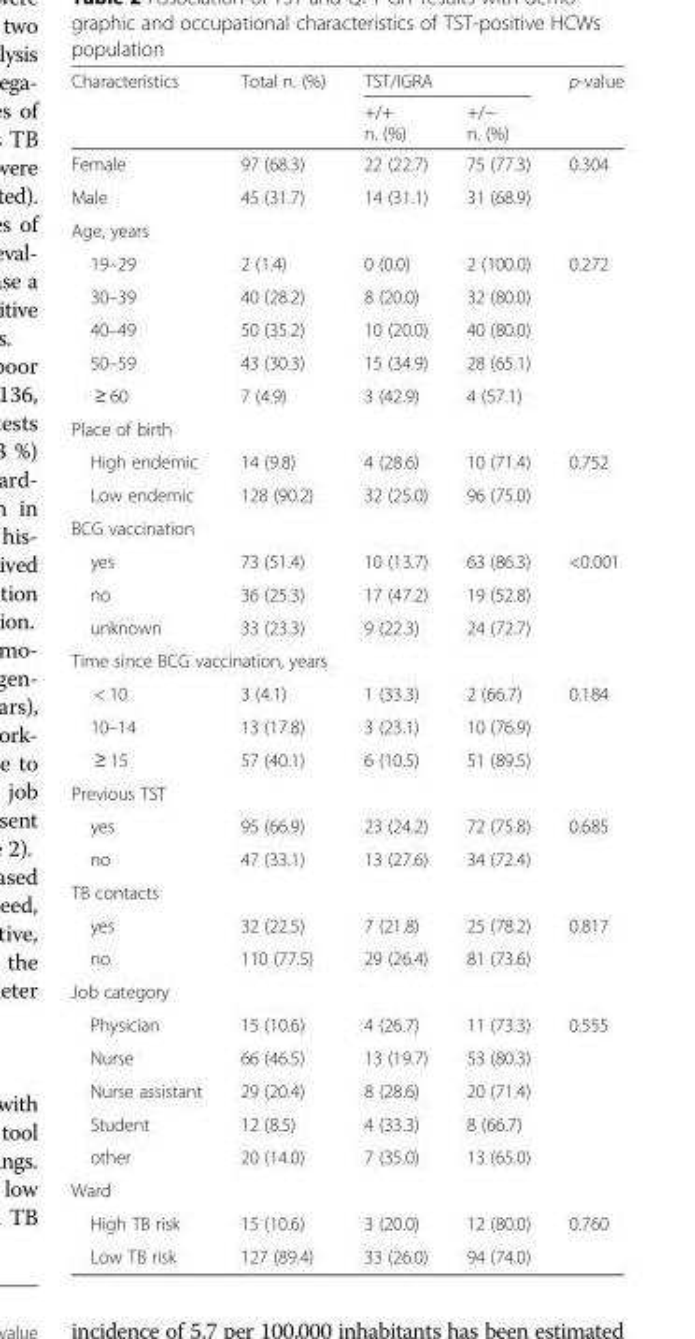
<table><thead><tr><td rowspan="2">Characteristics</td><td rowspan="2">Total n. (%)</td><td colspan="2">TST/IGRA</td><td rowspan="2">p-value</td></tr><tr><td>+/+ n. (%)</td><td>+/− n. (%)</td></tr></thead><tbody><tr><td>Female</td><td>97 (68.3)</td><td>22 (22.7)</td><td>75 (77.3)</td><td rowspan="2">0.304</td></tr><tr><td>Male</td><td>45 (31.7)</td><td>14 (31.1)</td><td>31 (68.9)</td></tr><tr><td colspan="5">Age, years</td></tr><tr><td>19–29</td><td>2 (1.4)</td><td>0 (0.0)</td><td>2 (100.0)</td><td rowspan="5">0.272</td></tr><tr><td>30–39</td><td>40 (28.2)</td><td>8 (20.0)</td><td>32 (80.0)</td></tr><tr><td>40–49</td><td>50 (35.2)</td><td>10 (20.0)</td><td>40 (80.0)</td></tr><tr><td>50–59</td><td>43 (30.3)</td><td>15 (34.9)</td><td>28 (65.1)</td></tr><tr><td>≥ 60</td><td>7 (4.9)</td><td>3 (42.9)</td><td>4 (57.1)</td></tr><tr><td colspan="5">Place of birth</td></tr><tr><td>High endemic</td><td>14 (9.8)</td><td>4 (28.6)</td><td>10 (71.4)</td><td rowspan="2">0.752</td></tr><tr><td>Low endemic</td><td>128 (90.2)</td><td>32 (25.0)</td><td>96 (75.0)</td></tr><tr><td colspan="5">BCG vaccination</td></tr><tr><td>yes</td><td>73 (51.4)</td><td>10 (13.7)</td><td>63 (86.3)</td><td rowspan="3">&lt;0.001</td></tr><tr><td>no</td><td>36 (25.3)</td><td>17 (47.2)</td><td>19 (52.8)</td></tr><tr><td>unknown</td><td>33 (23.3)</td><td>9 (22.3)</td><td>24 (72.7)</td></tr><tr><td colspan="5">Time since BCG vaccination, years</td></tr><tr><td>&lt; 10</td><td>3 (4.1)</td><td>1 (33.3)</td><td>2 (66.7)</td><td rowspan="3">0.184</td></tr><tr><td>10–14</td><td>13 (17.8)</td><td>3 (23.1)</td><td>10 (76.9)</td></tr><tr><td>≥ 15</td><td>57 (40.1)</td><td>6 (10.5)</td><td>51 (89.5)</td></tr><tr><td colspan="5">Previous TST</td></tr><tr><td>yes</td><td>95 (66.9)</td><td>23 (24.2)</td><td>72 (75.8)</td><td rowspan="2">0.685</td></tr><tr><td>no</td><td>47 (33.1)</td><td>13 (27.6)</td><td>34 (72.4)</td></tr><tr><td colspan="5">TB contacts</td></tr><tr><td>yes</td><td>32 (22.5)</td><td>7 (21.8)</td><td>25 (78.2)</td><td rowspan="2">0.817</td></tr><tr><td>no</td><td>110 (77.5)</td><td>29 (26.4)</td><td>81 (73.6)</td></tr><tr><td colspan="5">Job category</td></tr><tr><td>Physician</td><td>15 (10.6)</td><td>4 (26.7)</td><td>11 (73.3)</td><td rowspan="5">0.555</td></tr><tr><td>Nurse</td><td>66 (46.5)</td><td>13 (19.7)</td><td>53 (80.3)</td></tr><tr><td>Nurse assistant</td><td>29 (20.4)</td><td>8 (28.6)</td><td>20 (71.4)</td></tr><tr><td>Student</td><td>12 (8.5)</td><td>4 (33.3)</td><td>8 (66.7)</td></tr><tr><td>other</td><td>20 (14.0)</td><td>7 (35.0)</td><td>13 (65.0)</td></tr><tr><td colspan="5">Ward</td></tr><tr><td>High TB risk</td><td>15 (10.6)</td><td>3 (20.0)</td><td>12 (80.0)</td><td rowspan="2">0.760</td></tr><tr><td>Low TB risk</td><td>127 (89.4)</td><td>33 (26.0)</td><td>94 (74.0)</td></tr></tbody></table>